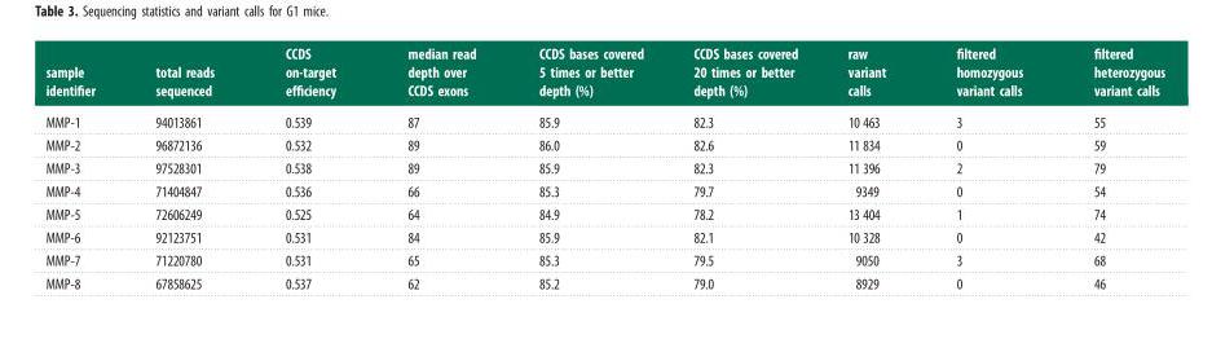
<table><thead><tr><td>sample identifier</td><td>total reads sequenced</td><td>CCDS on-target efficiency</td><td>median read depth over CCDS exons</td><td>CCDS bases covered 5 times or better depth (%)</td><td>CCDS bases covered 20 times or better depth (%)</td><td>raw variant calls</td><td>filtered homozygous variant calls</td><td>filtered heterozygous variant calls</td></tr></thead><tbody><tr><td>MMP-1</td><td>94013861</td><td>0.539</td><td>87</td><td>85.9</td><td>82.3</td><td>10 463</td><td>3</td><td>55</td></tr><tr><td>MMP-2</td><td>96872136</td><td>0.532</td><td>89</td><td>86.0</td><td>82.6</td><td>11 834</td><td>0</td><td>59</td></tr><tr><td>MMP-3</td><td>97528301</td><td>0.538</td><td>89</td><td>85.9</td><td>82.3</td><td>11 396</td><td>2</td><td>79</td></tr><tr><td>MMP-4</td><td>71404847</td><td>0.536</td><td>66</td><td>85.3</td><td>79.7</td><td>9349</td><td>0</td><td>54</td></tr><tr><td>MMP-5</td><td>72606249</td><td>0.525</td><td>64</td><td>84.9</td><td>78.2</td><td>13 404</td><td>1</td><td>74</td></tr><tr><td>MMP-6</td><td>92123751</td><td>0.531</td><td>84</td><td>85.9</td><td>82.1</td><td>10 328</td><td>0</td><td>42</td></tr><tr><td>MMP-7</td><td>71220780</td><td>0.531</td><td>65</td><td>85.3</td><td>79.5</td><td>9050</td><td>3</td><td>68</td></tr><tr><td>MMP-8</td><td>67858625</td><td>0.537</td><td>62</td><td>85.2</td><td>79.0</td><td>8929</td><td>0</td><td>46</td></tr></tbody></table>